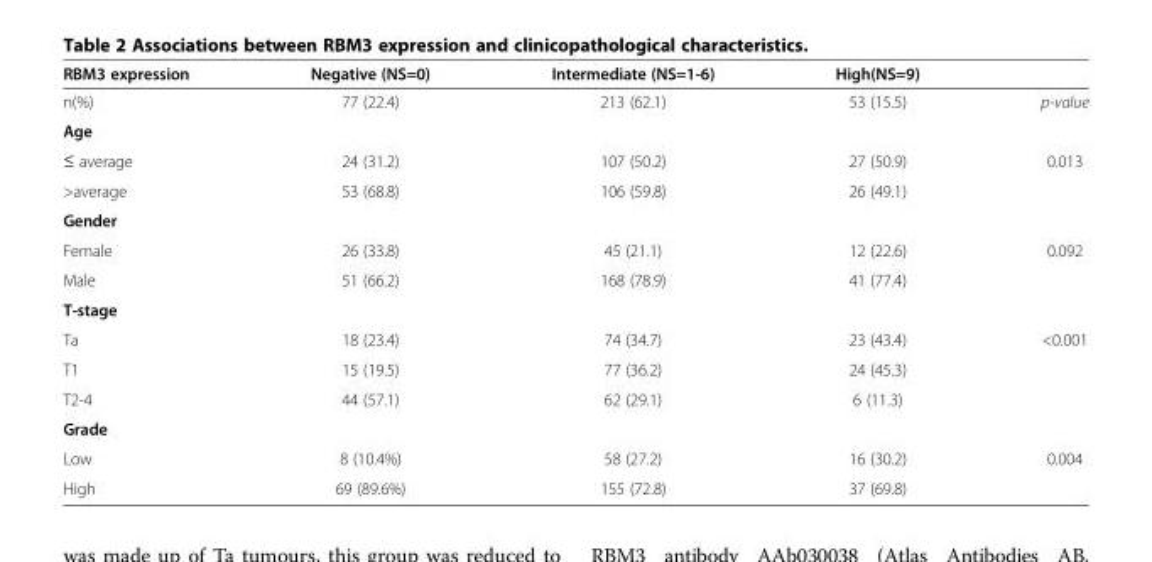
<table><thead><tr><td>RBM3 expression</td><td>Negative (NS=0)</td><td>Intermediate (NS=1-6)</td><td>High(NS=9)</td><td></td></tr></thead><tbody><tr><td>n(%)</td><td>77 (22.4)</td><td>213 (62.1)</td><td>53 (15.5)</td><td>p-value</td></tr><tr><td colspan="5">Age</td></tr><tr><td>≤ average</td><td>24 (31.2)</td><td>107 (50.2)</td><td>27 (50.9)</td><td>0.013</td></tr><tr><td>&gt;average</td><td>53 (68.8)</td><td>106 (59.8)</td><td>26 (49.1)</td><td></td></tr><tr><td colspan="5">Gender</td></tr><tr><td>Female</td><td>26 (33.8)</td><td>45 (21.1)</td><td>12 (22.6)</td><td>0.092</td></tr><tr><td>Male</td><td>51 (66.2)</td><td>168 (78.9)</td><td>41 (77.4)</td><td></td></tr><tr><td colspan="5">T-stage</td></tr><tr><td>Ta</td><td>18 (23.4)</td><td>74 (34.7)</td><td>23 (43.4)</td><td>&lt;0.001</td></tr><tr><td>T1</td><td>15 (19.5)</td><td>77 (36.2)</td><td>24 (45.3)</td><td></td></tr><tr><td>T2-4</td><td>44 (57.1)</td><td>62 (29.1)</td><td>6 (11.3)</td><td></td></tr><tr><td colspan="5">Grade</td></tr><tr><td>Low</td><td>8 (10.4%)</td><td>58 (27.2)</td><td>16 (30.2)</td><td>0.004</td></tr><tr><td>High</td><td>69 (89.6%)</td><td>155 (72.8)</td><td>37 (69.8)</td><td></td></tr></tbody></table>